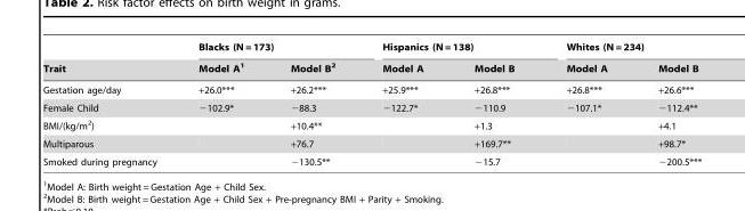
<table><thead><tr><td rowspan="2">Trait</td><td colspan="2">Blacks (N = 173)</td><td colspan="2">Hispanics (N = 138)</td><td colspan="2">Whites (N = 234)</td></tr><tr><td>Model A<sup>1</sup></td><td>Model B<sup>2</sup></td><td>Model A</td><td>Model B</td><td>Model A</td><td>Model B</td></tr></thead><tbody><tr><td>Gestation age/day</td><td>+26.0***</td><td>+26.2***</td><td>+25.9***</td><td>+26.8***</td><td>+26.8***</td><td>+26.6***</td></tr><tr><td>Female Child</td><td>−102.9*</td><td>−88.3</td><td>−122.7*</td><td>−110.9</td><td>−107.1*</td><td>−112.4**</td></tr><tr><td>BMI/(kg/m<sup>2</sup>)</td><td></td><td>+10.4**</td><td></td><td>+1.3</td><td></td><td>+4.1</td></tr><tr><td>Multiparous</td><td></td><td>+76.7</td><td></td><td>+169.7**</td><td></td><td>+98.7*</td></tr><tr><td>Smoked during pregnancy</td><td></td><td>−130.5**</td><td></td><td>−15.7</td><td></td><td>−200.5***</td></tr></tbody></table>